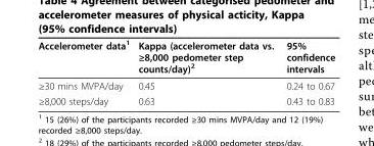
<table><thead><tr><td>Accelerometer data<sup>1</sup></td><td>Kappa (accelerometer data vs. ≥8,000 pedometer step counts/day)<sup>2</sup></td><td>95% confidence intervals</td></tr></thead><tbody><tr><td>≥30 mins MVPA/day</td><td>0.45</td><td>0.24 to 0.67</td></tr><tr><td>≥8,000 steps/day</td><td>0.63</td><td>0.43 to 0.83</td></tr></tbody></table>